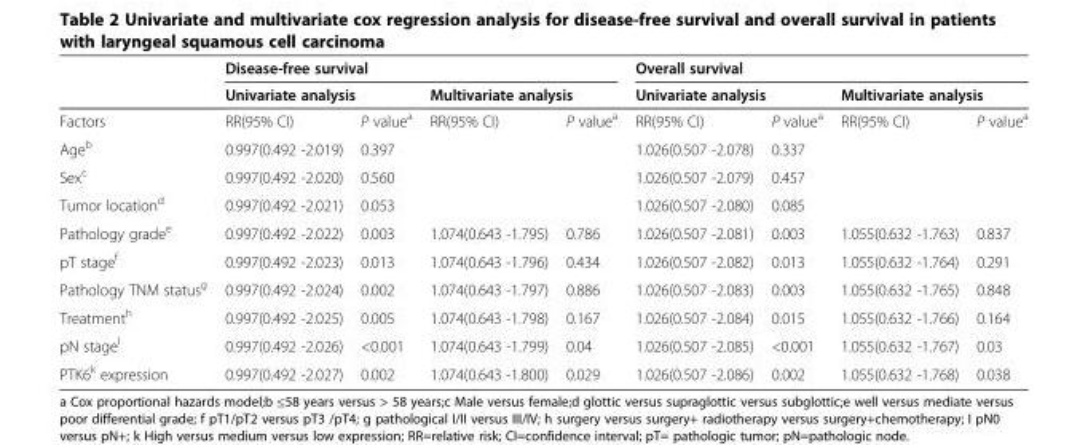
<table><thead><tr><td rowspan="3">Factors</td><td colspan="4">Disease-free survival</td><td colspan="4">Overall survival</td></tr><tr><td colspan="2">Univariate analysis</td><td colspan="2">Multivariate analysis</td><td colspan="2">Univariate analysis</td><td colspan="2">Multivariate analysis</td></tr><tr><td>RR(95% CI)</td><td>P value<sup>a</sup></td><td>RR(95% CI)</td><td>P value<sup>a</sup></td><td>RR(95% CI)</td><td>P value<sup>a</sup></td><td>RR(95% CI)</td><td>P value<sup>a</sup></td></tr></thead><tbody><tr><td>Age<sup>b</sup></td><td>0.997(0.492 -2.019)</td><td>0.397</td><td></td><td></td><td>1.026(0.507 -2.078)</td><td>0.337</td><td></td><td></td></tr><tr><td>Sex<sup>c</sup></td><td>0.997(0.492 -2.020)</td><td>0.560</td><td></td><td></td><td>1.026(0.507 -2.079)</td><td>0.457</td><td></td><td></td></tr><tr><td>Tumor location<sup>d</sup></td><td>0.997(0.492 -2.021)</td><td>0.053</td><td></td><td></td><td>1.026(0.507 -2.080)</td><td>0.085</td><td></td><td></td></tr><tr><td>Pathology grade<sup>e</sup></td><td>0.997(0.492 -2.022)</td><td>0.003</td><td>1.074(0.643 -1.795)</td><td>0.786</td><td>1.026(0.507 -2.081)</td><td>0.003</td><td>1.055(0.632 -1.763)</td><td>0.837</td></tr><tr><td>pT stage<sup>f</sup></td><td>0.997(0.492 -2.023)</td><td>0.013</td><td>1.074(0.643 -1.796)</td><td>0.434</td><td>1.026(0.507 -2.082)</td><td>0.013</td><td>1.055(0.632 -1.764)</td><td>0.291</td></tr><tr><td>Pathology TNM status<sup>g</sup></td><td>0.997(0.492 -2.024)</td><td>0.002</td><td>1.074(0.643 -1.797)</td><td>0.886</td><td>1.026(0.507 -2.083)</td><td>0.003</td><td>1.055(0.632 -1.765)</td><td>0.848</td></tr><tr><td>Treatment<sup>h</sup></td><td>0.997(0.492 -2.025)</td><td>0.005</td><td>1.074(0.643 -1.798)</td><td>0.167</td><td>1.026(0.507 -2.084)</td><td>0.015</td><td>1.055(0.632 -1.766)</td><td>0.164</td></tr><tr><td>pN stage<sup>I</sup></td><td>0.997(0.492 -2.026)</td><td>&lt;0.001</td><td>1.074(0.643 -1.799)</td><td>0.04</td><td>1.026(0.507 -2.085)</td><td>&lt;0.001</td><td>1.055(0.632 -1.767)</td><td>0.03</td></tr><tr><td>PTK6<sup>k</sup> expression</td><td>0.997(0.492 -2.027)</td><td>0.002</td><td>1.074(0.643 -1.800)</td><td>0.029</td><td>1.026(0.507 -2.086)</td><td>0.002</td><td>1.055(0.632 -1.768)</td><td>0.038</td></tr></tbody></table>